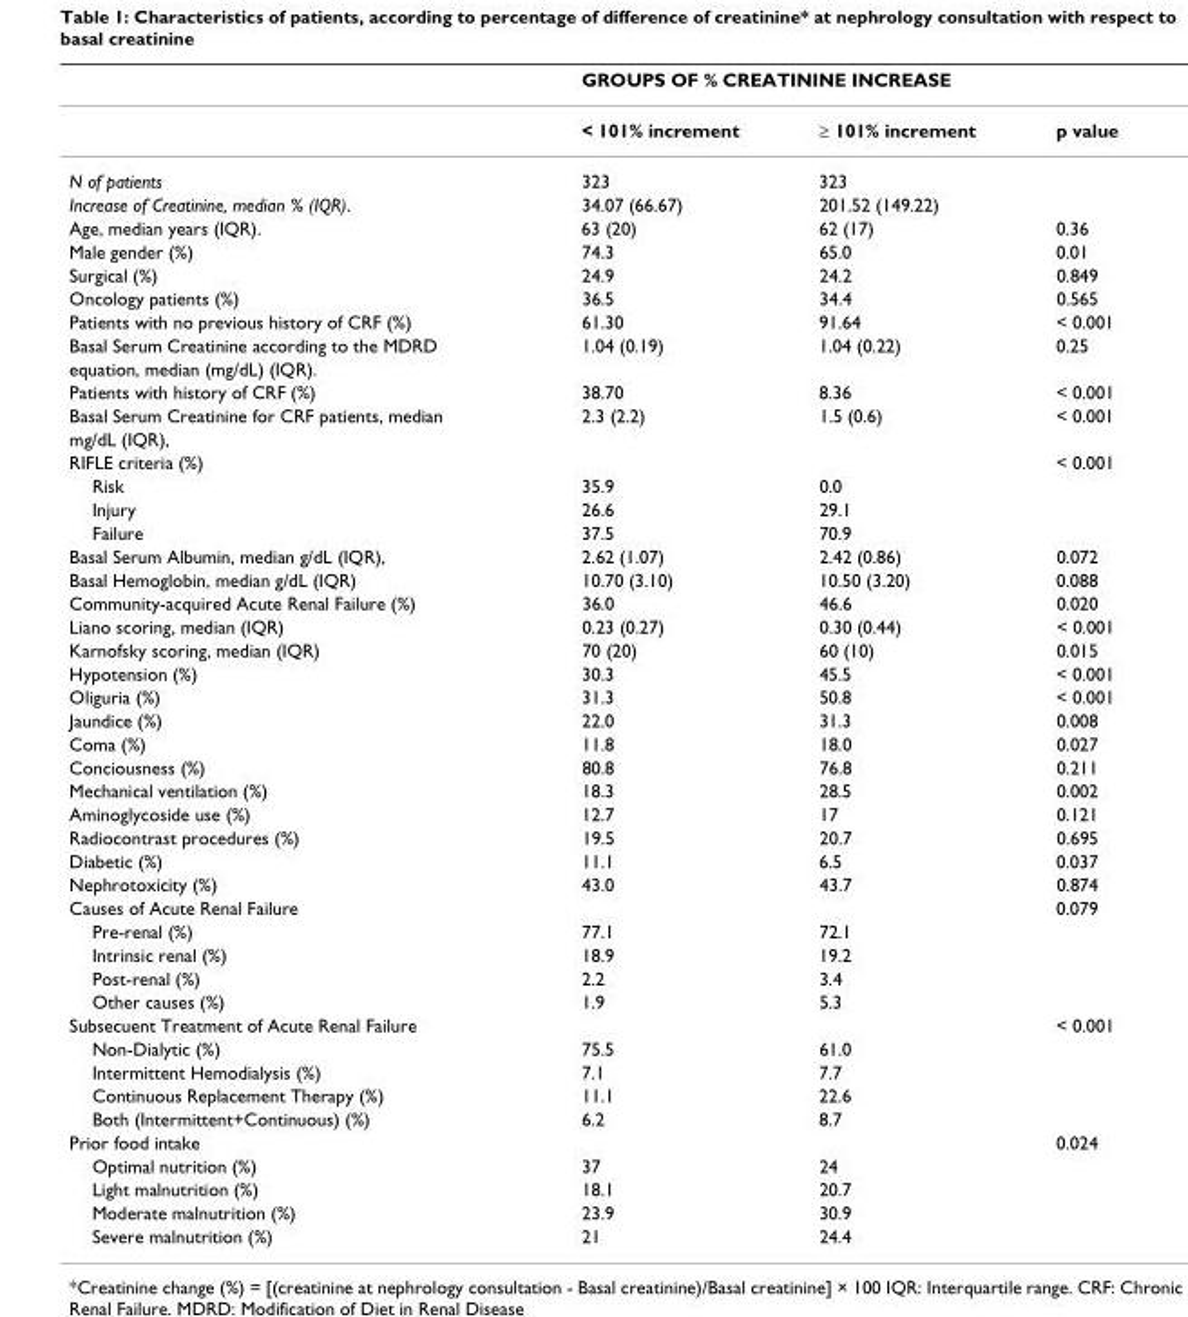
<table><thead><tr><td rowspan="2"></td><td colspan="3">GROUPS OF % CREATININE INCREASE</td></tr><tr><td>&lt; 101% increment</td><td>≥ 101% increment</td><td>p value</td></tr></thead><tbody><tr><td>N of patients</td><td>323</td><td>323</td><td></td></tr><tr><td>Increase of Creatinine, median % (IQR).</td><td>34.07 (66.67)</td><td>201.52 (149.22)</td><td></td></tr><tr><td>Age, median years (IQR).</td><td>63 (20)</td><td>62 (17)</td><td>0.36</td></tr><tr><td>Male gender (%)</td><td>74.3</td><td>65.0</td><td>0.01</td></tr><tr><td>Surgical (%)</td><td>24.9</td><td>24.2</td><td>0.849</td></tr><tr><td>Oncology patients (%)</td><td>36.5</td><td>34.4</td><td>0.565</td></tr><tr><td>Patients with no previous history of CRF (%)</td><td>61.30</td><td>91.64</td><td>&lt; 0.001</td></tr><tr><td>Basal Serum Creatinine according to the MDRD</td><td>1.04 (0.19)</td><td>1.04 (0.22)</td><td>0.25</td></tr><tr><td colspan="4">equation, median (mg/dL) (IQR).</td></tr><tr><td>Patients with history of CRF (%)</td><td>38.70</td><td>8.36</td><td>&lt; 0.001</td></tr><tr><td>Basal Serum Creatinine for CRF patients, median</td><td>2.3 (2.2)</td><td>1.5 (0.6)</td><td>&lt; 0.001</td></tr><tr><td colspan="4">mg/dL (IQR),</td></tr><tr><td>RIFLE criteria (%)</td><td></td><td></td><td>&lt; 0.001</td></tr><tr><td>Risk</td><td>35.9</td><td>0.0</td><td></td></tr><tr><td>Injury</td><td>26.6</td><td>29.1</td><td></td></tr><tr><td>Failure</td><td>37.5</td><td>70.9</td><td></td></tr><tr><td>Basal Serum Albumin, median g/dL (IQR),</td><td>2.62 (1.07)</td><td>2.42 (0.86)</td><td>0.072</td></tr><tr><td>Basal Hemoglobin, median g/dL (IQR)</td><td>10.70 (3.10)</td><td>10.50 (3.20)</td><td>0.088</td></tr><tr><td>Community-acquired Acute Renal Failure (%)</td><td>36.0</td><td>46.6</td><td>0.020</td></tr><tr><td>Liano scoring, median (IQR)</td><td>0.23 (0.27)</td><td>0.30 (0.44)</td><td>&lt; 0.001</td></tr><tr><td>Karnofsky scoring, median (IQR)</td><td>70 (20)</td><td>60 (10)</td><td>0.015</td></tr><tr><td>Hypotension (%)</td><td>30.3</td><td>45.5</td><td>&lt; 0.001</td></tr><tr><td>Oliguria (%)</td><td>31.3</td><td>50.8</td><td>&lt; 0.001</td></tr><tr><td>Jaundice (%)</td><td>22.0</td><td>31.3</td><td>0.008</td></tr><tr><td>Coma (%)</td><td>11.8</td><td>18.0</td><td>0.027</td></tr><tr><td>Conciousness (%)</td><td>80.8</td><td>76.8</td><td>0.211</td></tr><tr><td>Mechanical ventilation (%)</td><td>18.3</td><td>28.5</td><td>0.002</td></tr><tr><td>Aminoglycoside use (%)</td><td>12.7</td><td>17</td><td>0.121</td></tr><tr><td>Radiocontrast procedures (%)</td><td>19.5</td><td>20.7</td><td>0.695</td></tr><tr><td>Diabetic (%)</td><td>11.1</td><td>6.5</td><td>0.037</td></tr><tr><td>Nephrotoxicity (%)</td><td>43.0</td><td>43.7</td><td>0.874</td></tr><tr><td>Causes of Acute Renal Failure</td><td></td><td></td><td>0.079</td></tr><tr><td>Pre-renal (%)</td><td>77.1</td><td>72.1</td><td></td></tr><tr><td>Intrinsic renal (%)</td><td>18.9</td><td>19.2</td><td></td></tr><tr><td>Post-renal (%)</td><td>2.2</td><td>3.4</td><td></td></tr><tr><td>Other causes (%)</td><td>1.9</td><td>5.3</td><td></td></tr><tr><td>Subsecuent Treatment of Acute Renal Failure</td><td></td><td></td><td>&lt; 0.001</td></tr><tr><td>Non-Dialytic (%)</td><td>75.5</td><td>61.0</td><td></td></tr><tr><td>Intermittent Hemodialysis (%)</td><td>7.1</td><td>7.7</td><td></td></tr><tr><td>Continuous Replacement Therapy (%)</td><td>11.1</td><td>22.6</td><td></td></tr><tr><td>Both (Intermittent+Continuous) (%)</td><td>6.2</td><td>8.7</td><td></td></tr><tr><td>Prior food intake</td><td></td><td></td><td>0.024</td></tr><tr><td>Optimal nutrition (%)</td><td>37</td><td>24</td><td></td></tr><tr><td>Light malnutrition (%)</td><td>18.1</td><td>20.7</td><td></td></tr><tr><td>Moderate malnutrition (%)</td><td>23.9</td><td>30.9</td><td></td></tr><tr><td>Severe malnutrition (%)</td><td>21</td><td>24.4</td><td></td></tr></tbody></table>